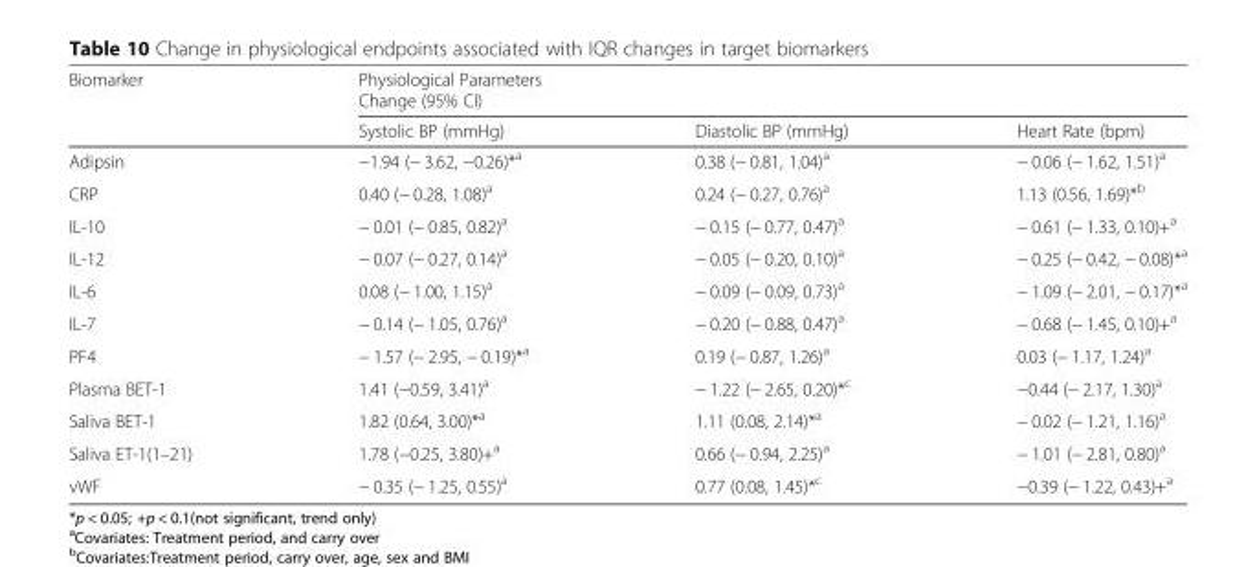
<table><thead><tr><td rowspan="2">Biomarker</td><td colspan="3">Physiological Parameters Change (95% CI)</td></tr><tr><td>Systolic BP (mmHg)</td><td>Diastolic BP (mmHg)</td><td>Heart Rate (bpm)</td></tr></thead><tbody><tr><td>Adipsin</td><td>−1.94 (− 3.62, −0.26)*<sup>a</sup></td><td>0.38 (− 0.81, 1.04)<sup>a</sup></td><td>− 0.06 (− 1.62, 1.51)<sup>a</sup></td></tr><tr><td>CRP</td><td>0.40 (− 0.28, 1.08)<sup>a</sup></td><td>0.24 (− 0.27, 0.76)<sup>a</sup></td><td>1.13 (0.56, 1.69)*<sup>b</sup></td></tr><tr><td>IL-10</td><td>− 0.01 (− 0.85, 0.82)<sup>a</sup></td><td>− 0.15 (− 0.77, 0.47)<sup>a</sup></td><td>− 0.61 (− 1.33, 0.10)+<sup>a</sup></td></tr><tr><td>IL-12</td><td>− 0.07 (− 0.27, 0.14)<sup>a</sup></td><td>− 0.05 (− 0.20, 0.10)<sup>a</sup></td><td>− 0.25 (− 0.42, − 0.08)*<sup>a</sup></td></tr><tr><td>IL-6</td><td>0.08 (− 1.00, 1.15)<sup>a</sup></td><td>− 0.09 (− 0.09, 0.73)<sup>a</sup></td><td>− 1.09 (− 2.01, − 0.17)*<sup>a</sup></td></tr><tr><td>IL-7</td><td>− 0.14 (− 1.05, 0.76)<sup>a</sup></td><td>− 0.20 (− 0.88, 0.47)<sup>a</sup></td><td>− 0.68 (− 1.45, 0.10)+<sup>a</sup></td></tr><tr><td>PF4</td><td>− 1.57 (− 2.95, − 0.19)*<sup>a</sup></td><td>0.19 (− 0.87, 1.26)<sup>a</sup></td><td>0.03 (− 1.17, 1.24)<sup>a</sup></td></tr><tr><td>Plasma BET-1</td><td>1.41 (−0.59, 3.41)<sup>a</sup></td><td>− 1.22 (− 2.65, 0.20)*<sup>c</sup></td><td>−0.44 (− 2.17, 1.30)<sup>a</sup></td></tr><tr><td>Saliva BET-1</td><td>1.82 (0.64, 3.00)*<sup>a</sup></td><td>1.11 (0.08, 2.14)*<sup>a</sup></td><td>− 0.02 (− 1.21, 1.16)<sup>a</sup></td></tr><tr><td>Saliva ET-1(1–21)</td><td>1.78 (−0.25, 3.80)+<sup>a</sup></td><td>0.66 (− 0.94, 2.25)<sup>a</sup></td><td>− 1.01 (− 2.81, 0.80)<sup>a</sup></td></tr><tr><td>vWF</td><td>− 0.35 (− 1.25, 0.55)<sup>a</sup></td><td>0.77 (0.08, 1.45)*<sup>c</sup></td><td>−0.39 (− 1.22, 0.43)+<sup>a</sup></td></tr></tbody></table>